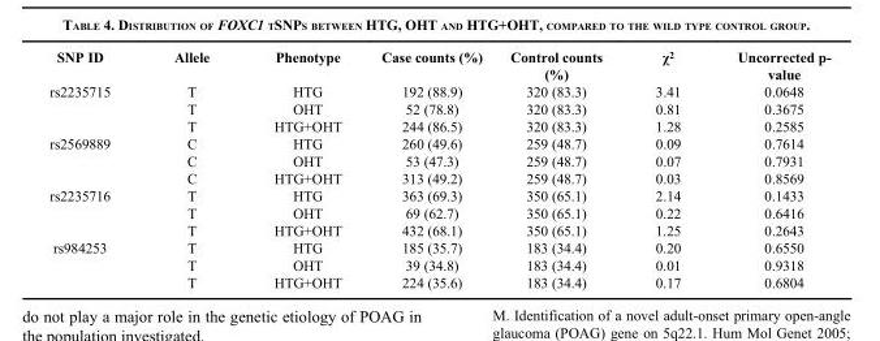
<table><thead><tr><td>SNP ID</td><td>Allele</td><td>Phenotype</td><td>Case counts (%)</td><td>Control counts (%)</td><td>χ<sup>2</sup></td><td>Uncorrected p- value</td></tr></thead><tbody><tr><td rowspan="3">rs2235715</td><td>T</td><td>HTG</td><td>192 (88.9)</td><td>320 (83.3)</td><td>3.41</td><td>0.0648</td></tr><tr><td>T</td><td>OHT</td><td>52 (78.8)</td><td>320 (83.3)</td><td>0.81</td><td>0.3675</td></tr><tr><td>T</td><td>HTG+OHT</td><td>244 (86.5)</td><td>320 (83.3)</td><td>1.28</td><td>0.2585</td></tr><tr><td rowspan="3">rs2569889</td><td>C</td><td>HTG</td><td>260 (49.6)</td><td>259 (48.7)</td><td>0.09</td><td>0.7614</td></tr><tr><td>C</td><td>OHT</td><td>53 (47.3)</td><td>259 (48.7)</td><td>0.07</td><td>0.7931</td></tr><tr><td>C</td><td>HTG+OHT</td><td>313 (49.2)</td><td>259 (48.7)</td><td>0.03</td><td>0.8569</td></tr><tr><td rowspan="3">rs2235716</td><td>T</td><td>HTG</td><td>363 (69.3)</td><td>350 (65.1)</td><td>2.14</td><td>0.1433</td></tr><tr><td>T</td><td>OHT</td><td>69 (62.7)</td><td>350 (65.1)</td><td>0.22</td><td>0.6416</td></tr><tr><td>T</td><td>HTG+OHT</td><td>432 (68.1)</td><td>350 (65.1)</td><td>1.25</td><td>0.2643</td></tr><tr><td rowspan="3">rs984253</td><td>T</td><td>HTG</td><td>185 (35.7)</td><td>183 (34.4)</td><td>0.20</td><td>0.6550</td></tr><tr><td>T</td><td>OHT</td><td>39 (34.8)</td><td>183 (34.4)</td><td>0.01</td><td>0.9318</td></tr><tr><td>T</td><td>HTG+OHT</td><td>224 (35.6)</td><td>183 (34.4)</td><td>0.17</td><td>0.6804</td></tr></tbody></table>